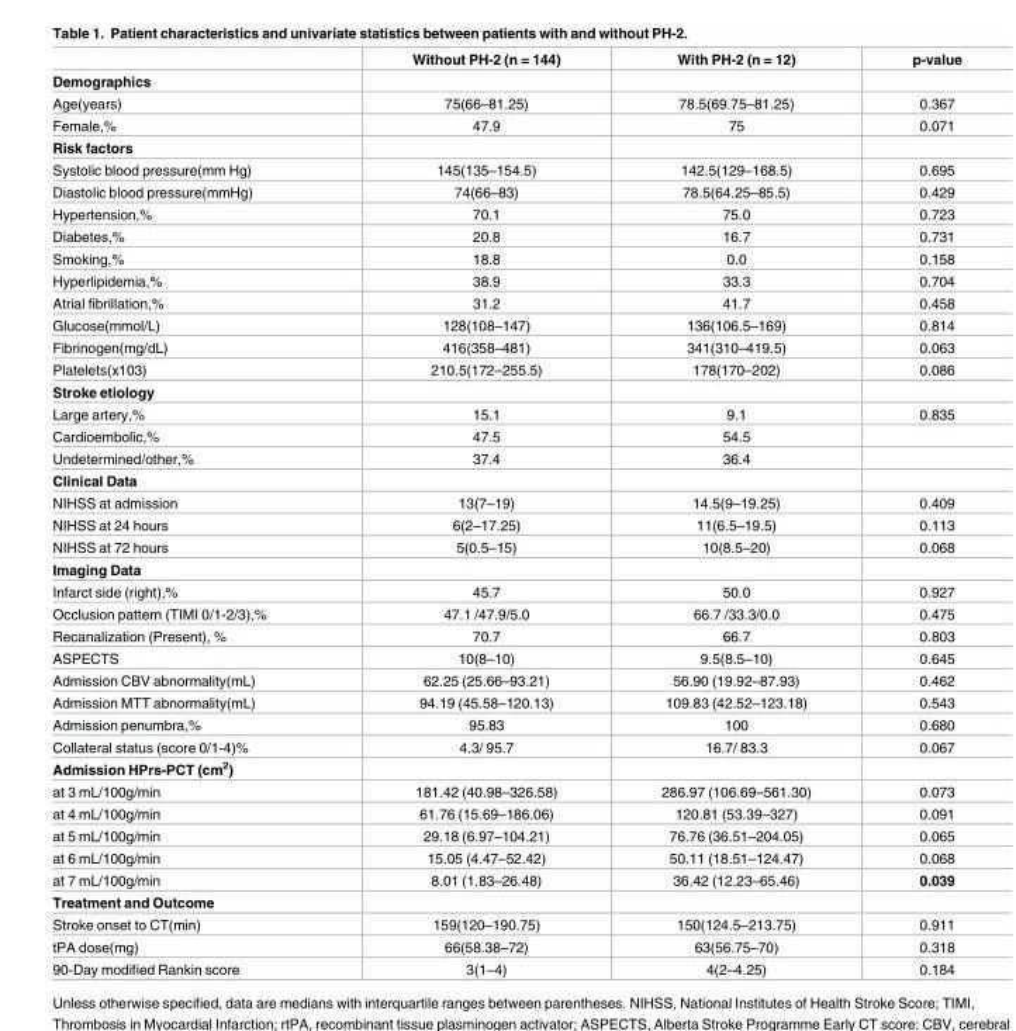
<table><thead><tr><td></td><td>Without PH-2 (n = 144)</td><td>With PH-2 (n = 12)</td><td>p-value</td></tr></thead><tbody><tr><td colspan="4">Demographics</td></tr><tr><td>Age(years)</td><td>75(66–81.25)</td><td>78.5(69.75–81.25)</td><td>0.367</td></tr><tr><td>Female,%</td><td>47.9</td><td>75</td><td>0.071</td></tr><tr><td colspan="4">Risk factors</td></tr><tr><td>Systolic blood pressure(mm Hg)</td><td>145(135–154.5)</td><td>142.5(129–168.5)</td><td>0.695</td></tr><tr><td>Diastolic blood pressure(mmHg)</td><td>74(66–83)</td><td>78.5(64.25–85.5)</td><td>0.429</td></tr><tr><td>Hypertension,%</td><td>70.1</td><td>75.0</td><td>0.723</td></tr><tr><td>Diabetes,%</td><td>20.8</td><td>16.7</td><td>0.731</td></tr><tr><td>Smoking,%</td><td>18.8</td><td>0.0</td><td>0.158</td></tr><tr><td>Hyperlipidemia,%</td><td>38.9</td><td>33.3</td><td>0.704</td></tr><tr><td>Atrial fibrillation,%</td><td>31.2</td><td>41.7</td><td>0.458</td></tr><tr><td>Glucose(mmol/L)</td><td>128(108–147)</td><td>136(106.5–169)</td><td>0.814</td></tr><tr><td>Fibrinogen(mg/dL)</td><td>416(358–481)</td><td>341(310–419.5)</td><td>0.063</td></tr><tr><td>Platelets(x103)</td><td>210.5(172–255.5)</td><td>178(170–202)</td><td>0.086</td></tr><tr><td colspan="4">Stroke etiology</td></tr><tr><td>Large artery,%</td><td>15.1</td><td>9.1</td><td>0.835</td></tr><tr><td>Cardioembolic,%</td><td>47.5</td><td>54.5</td><td></td></tr><tr><td>Undetermined/other,%</td><td>37.4</td><td>36.4</td><td></td></tr><tr><td colspan="4">Clinical Data</td></tr><tr><td>NIHSS at admission</td><td>13(7–19)</td><td>14.5(9–19.25)</td><td>0.409</td></tr><tr><td>NIHSS at 24 hours</td><td>6(2–17.25)</td><td>11(6.5–19.5)</td><td>0.113</td></tr><tr><td>NIHSS at 72 hours</td><td>5(0.5–15)</td><td>10(8.5–20)</td><td>0.068</td></tr><tr><td colspan="4">Imaging Data</td></tr><tr><td>Infarct side (right),%</td><td>45.7</td><td>50.0</td><td>0.927</td></tr><tr><td>Occlusion pattern (TIMI 0/1-2/3),%</td><td>47.1 /47.9/5.0</td><td>66.7 /33.3/0.0</td><td>0.475</td></tr><tr><td>Recanalization (Present), %</td><td>70.7</td><td>66.7</td><td>0.803</td></tr><tr><td>ASPECTS</td><td>10(8–10)</td><td>9.5(8.5–10)</td><td>0.645</td></tr><tr><td>Admission CBV abnormality(mL)</td><td>62.25 (25.66–93.21)</td><td>56.90 (19.92–87.93)</td><td>0.462</td></tr><tr><td>Admission MTT abnormality(mL)</td><td>94.19 (45.58–120.13)</td><td>109.83 (42.52–123.18)</td><td>0.543</td></tr><tr><td>Admission penumbra,%</td><td>95.83</td><td>100</td><td>0.680</td></tr><tr><td>Collateral status (score 0/1-4)%</td><td>4.3/ 95.7</td><td>16.7/ 83.3</td><td>0.067</td></tr><tr><td colspan="4">Admission HPrs-PCT (cm<sup>2</sup>)</td></tr><tr><td>at 3 mL/100g/min</td><td>181.42 (40.98–326.58)</td><td>286.97 (106.69–561.30)</td><td>0.073</td></tr><tr><td>at 4 mL/100g/min</td><td>61.76 (15.69–186.06)</td><td>120.81 (53.39–327)</td><td>0.091</td></tr><tr><td>at 5 mL/100g/min</td><td>29.18 (6.97–104.21)</td><td>76.76 (36.51–204.05)</td><td>0.065</td></tr><tr><td>at 6 mL/100g/min</td><td>15.05 (4.47–52.42)</td><td>50.11 (18.51–124.47)</td><td>0.068</td></tr><tr><td>at 7 mL/100g/min</td><td>8.01 (1.83–26.48)</td><td>36.42 (12.23–65.46)</td><td>0.039</td></tr><tr><td colspan="4">Treatment and Outcome</td></tr><tr><td>Stroke onset to CT(min)</td><td>159(120–190.75)</td><td>150(124.5–213.75)</td><td>0.911</td></tr><tr><td>tPA dose(mg)</td><td>66(58.38–72)</td><td>63(56.75–70)</td><td>0.318</td></tr><tr><td>90-Day modified Rankin score</td><td>3(1–4)</td><td>4(2–4.25)</td><td>0.184</td></tr></tbody></table>